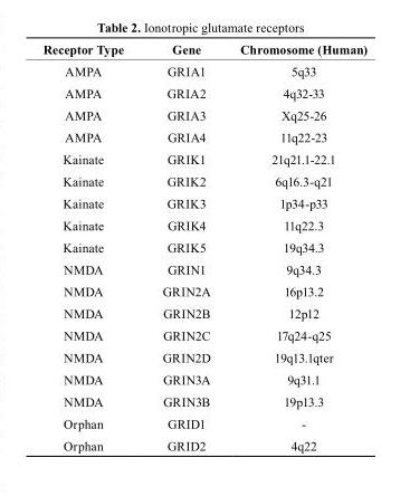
<table><thead><tr><td>receptor type</td><td>Gene</td><td>chromosome (Human)</td></tr></thead><tbody><tr><td>AMPA</td><td>GRIA1</td><td>5q33</td></tr><tr><td>AMPA</td><td>GRIA2</td><td>4q32-33</td></tr><tr><td>AMPA</td><td>GRIA3</td><td>Xq25-26</td></tr><tr><td>AMPA</td><td>GRIA4</td><td>11q22-23</td></tr><tr><td>Kainate</td><td>GRIK1</td><td>21q21.1-22.1</td></tr><tr><td>Kainate</td><td>GRIK2</td><td>6q16.3-q21</td></tr><tr><td>Kainate</td><td>GRIK3</td><td>1p34-p33</td></tr><tr><td>Kainate</td><td>GRIK4</td><td>11q22.3</td></tr><tr><td>Kainate</td><td>GRIK5</td><td>19q34.3</td></tr><tr><td>NMDA</td><td>GRIN1</td><td>9q34.3</td></tr><tr><td>NMDA</td><td>GRIN2A</td><td>16p13.2</td></tr><tr><td>NMDA</td><td>GRIN2B</td><td>12p12</td></tr><tr><td>NMDA</td><td>GRIN2C</td><td>17q24-q25</td></tr><tr><td>NMDA</td><td>GRIN2D</td><td>19q13.1qter</td></tr><tr><td>NMDA</td><td>GRIN3A</td><td>9q31.1</td></tr><tr><td>NMDA</td><td>GRIN3B</td><td>19p13.3</td></tr><tr><td>Orphan</td><td>GRID1</td><td>-</td></tr><tr><td>Orphan</td><td>GRID2</td><td>4q22</td></tr></tbody></table>